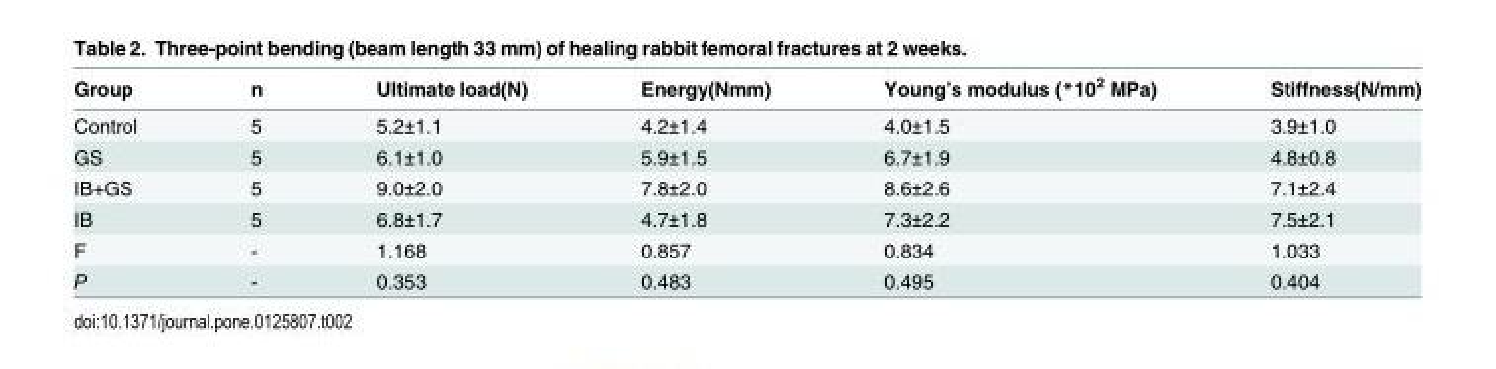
<table><thead><tr><td>Group</td><td>n</td><td>Ultimate load(N)</td><td>Energy(Nmm)</td><td>Young’s modulus (*10<sup>2</sup> MPa)</td><td>Stiffness(N/mm)</td></tr></thead><tbody><tr><td>Control</td><td>5</td><td>5.2±1.1</td><td>4.2±1.4</td><td>4.0±1.5</td><td>3.9±1.0</td></tr><tr><td>GS</td><td>5</td><td>6.1±1.0</td><td>5.9±1.5</td><td>6.7±1.9</td><td>4.8±0.8</td></tr><tr><td>IB+GS</td><td>5</td><td>9.0±2.0</td><td>7.8±2.0</td><td>8.6±2.6</td><td>7.1±2.4</td></tr><tr><td>IB</td><td>5</td><td>6.8±1.7</td><td>4.7±1.8</td><td>7.3±2.2</td><td>7.5±2.1</td></tr><tr><td>F</td><td>-</td><td>1.168</td><td>0.857</td><td>0.834</td><td>1.033</td></tr><tr><td>P</td><td>-</td><td>0.353</td><td>0.483</td><td>0.495</td><td>0.404</td></tr></tbody></table>